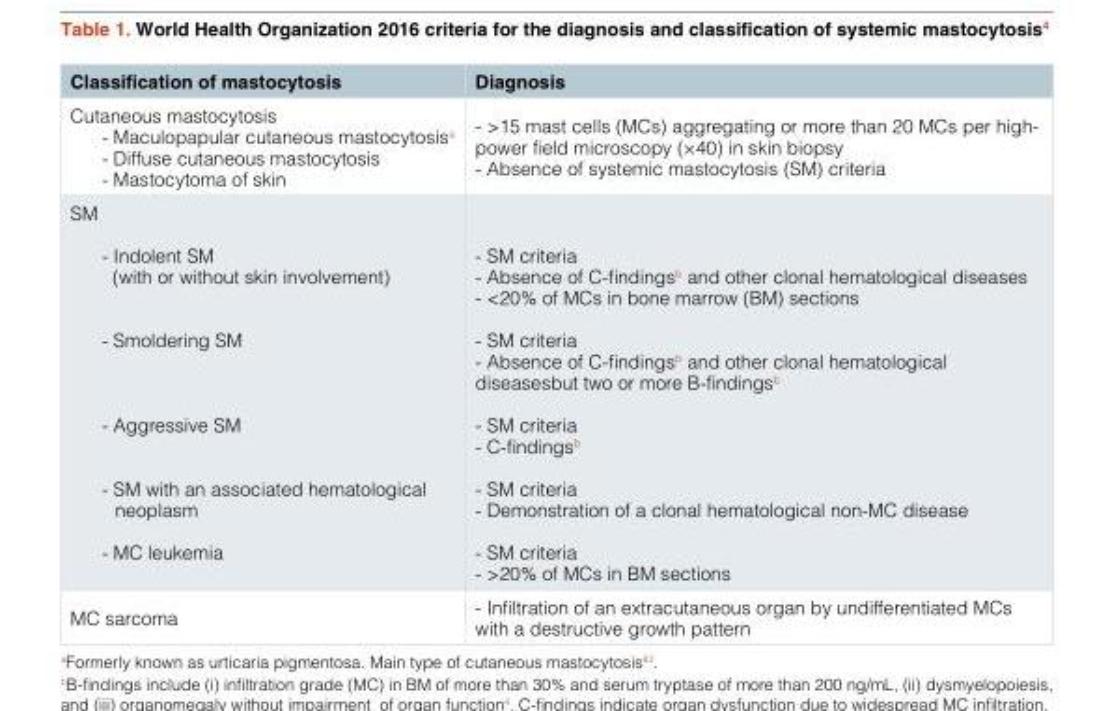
<table><thead><tr><td>Classification of mastocytosis</td><td>Diagnosis</td></tr></thead><tbody><tr><td>Cutaneous mastocytosis - Maculopapular cutaneous mastocytosis<sup>a</sup> - Diffuse cutaneous mastocytosis - Mastocytoma of skin</td><td>- &gt;15 mast cells (MCs) aggregating or more than 20 MCs per high- power field microscopy (×40) in skin biopsy - Absence of systemic mastocytosis (SM) criteria</td></tr><tr><td>SM - Indolent SM (with or without skin involvement) - Smoldering SM - Aggressive SM - SM with an associated hematological neoplasm - MC leukemia</td><td>- SM criteria - Absence of C-findings<sup>b</sup> and other clonal hematological diseases - &lt;20% of MCs in bone marrow (BM) sections - SM criteria - Absence of C-findings<sup>b</sup> and other clonal hematological diseasesbut two or more B-findings<sup>b</sup> - SM criteria - C-findings<sup>b</sup> - SM criteria - Demonstration of a clonal hematological non-MC disease - SM criteria - &gt;20% of MCs in BM sections</td></tr><tr><td>MC sarcoma</td><td>- Infiltration of an extracutaneous organ by undifferentiated MCs with a destructive growth pattern</td></tr></tbody></table>